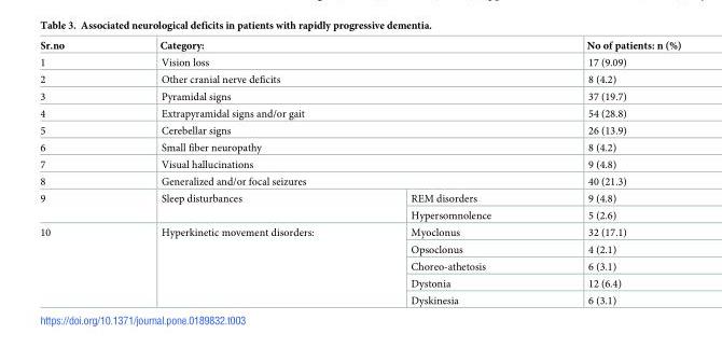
<table><thead><tr><td>Sr.no</td><td colspan="2">Category:</td><td>No of patients: n (%)</td></tr></thead><tbody><tr><td>1</td><td colspan="2">Vision loss</td><td>17 (9.09)</td></tr><tr><td>2</td><td colspan="2">Other cranial nerve deficits</td><td>8 (4.2)</td></tr><tr><td>3</td><td colspan="2">Pyramidal signs</td><td>37 (19.7)</td></tr><tr><td>4</td><td colspan="2">Extrapyramidal signs and/or gait</td><td>54 (28.8)</td></tr><tr><td>5</td><td colspan="2">Cerebellar signs</td><td>26 (13.9)</td></tr><tr><td>6</td><td colspan="2">Small fiber neuropathy</td><td>8 (4.2)</td></tr><tr><td>7</td><td colspan="2">Visual hallucinations</td><td>9 (4.8)</td></tr><tr><td>8</td><td colspan="2">Generalized and/or focal seizures</td><td>40 (21.3)</td></tr><tr><td rowspan="2">9</td><td rowspan="2">Sleep disturbances</td><td>REM disorders</td><td>9 (4.8)</td></tr><tr><td>Hypersomnolence</td><td>5 (2.6)</td></tr><tr><td rowspan="5">10</td><td rowspan="5">Hyperkinetic movement disorders:</td><td>Myoclonus</td><td>32 (17.1)</td></tr><tr><td>Opsoclonus</td><td>4 (2.1)</td></tr><tr><td>Choreo-athetosis</td><td>6 (3.1)</td></tr><tr><td>Dystonia</td><td>12 (6.4)</td></tr><tr><td>Dyskinesia</td><td>6 (3.1)</td></tr></tbody></table>